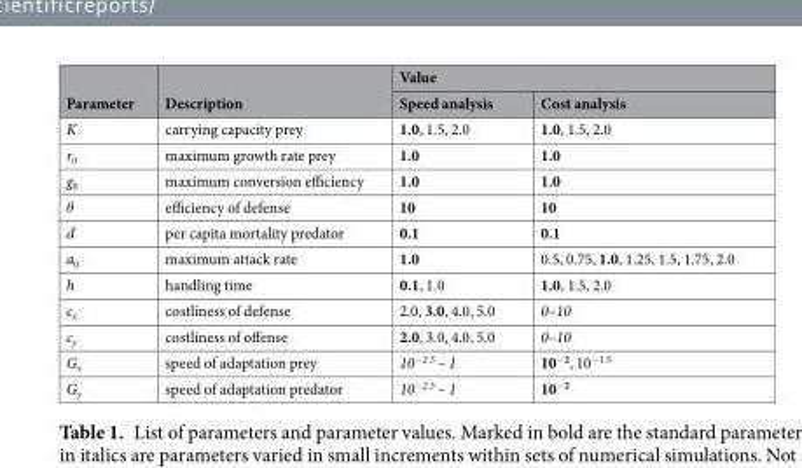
<table><thead><tr><td rowspan="2">Parameter</td><td rowspan="2">Description</td><td colspan="2">Value</td></tr><tr><td>Speed analysis</td><td>Cost analysis</td></tr></thead><tbody><tr><td>K</td><td>carrying capacity prey</td><td>1.0, 1.5, 2.0</td><td>1.0, 1.5, 2.0</td></tr><tr><td>r<sub>0</sub></td><td>maximum growth rate prey</td><td>1.0</td><td>1.0</td></tr><tr><td>g<sub>0</sub></td><td>maximum conversion efficiency</td><td>1.0</td><td>1.0</td></tr><tr><td>θ</td><td>efficiency of defense</td><td>10</td><td>10</td></tr><tr><td>d</td><td>per capita mortality predator</td><td>0.1</td><td>0.1</td></tr><tr><td>a<sub>0</sub></td><td>maximum attack rate</td><td>1.0</td><td>0.5, 0.75, 1.0, 1.25, 1.5, 1.75, 2.0</td></tr><tr><td>h</td><td>handling time</td><td>0.1, 1.0</td><td>1.0, 1.5, 2.0</td></tr><tr><td>c<sub>x</sub></td><td>costliness of defense</td><td>2.0, 3.0, 4.0, 5.0</td><td>0–10</td></tr><tr><td>c<sub>y</sub></td><td>costliness of offense</td><td>2.0, 3.0, 4.0, 5.0</td><td>0–10</td></tr><tr><td>G<sub>x</sub></td><td>speed of adaptation prey</td><td>10<sup>−2.5</sup> – 1</td><td>10<sup>−2</sup>, 10<sup>−1.5</sup></td></tr><tr><td>G<sub>y</sub></td><td>speed of adaptation predator</td><td>10<sup>−2.5</sup> – 1</td><td>10<sup>−2</sup></td></tr></tbody></table>